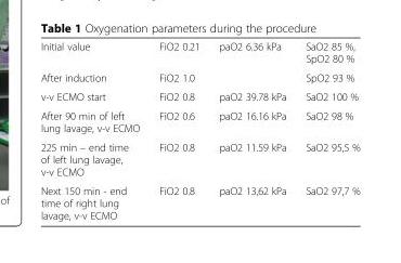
<table><tbody><tr><td>Initial value</td><td>FiO2 0.21</td><td>paO2 6.36 kPa</td><td>SaO2 85 %, SpO2 80 %</td></tr><tr><td>After induction</td><td>FiO2 1.0</td><td></td><td>SpO2 93 %</td></tr><tr><td>v-v ECMO start</td><td>FiO2 0.8</td><td>paO2 39.78 kPa</td><td>SaO2 100 %</td></tr><tr><td>After 90 min of left lung lavage, v-v ECMO</td><td>FiO2 0.6</td><td>paO2 16.16 kPa</td><td>SaO2 98 %</td></tr><tr><td>225 min – end time of left lung lavage, v-v ECMO</td><td>FiO2 0.8</td><td>paO2 11.59 kPa</td><td>SaO2 95,5 %</td></tr><tr><td>Next 150 min - end time of right lung lavage, v-v ECMO</td><td>FiO2 0.8</td><td>paO2 13,62 kPa</td><td>SaO2 97,7 %</td></tr></tbody></table>